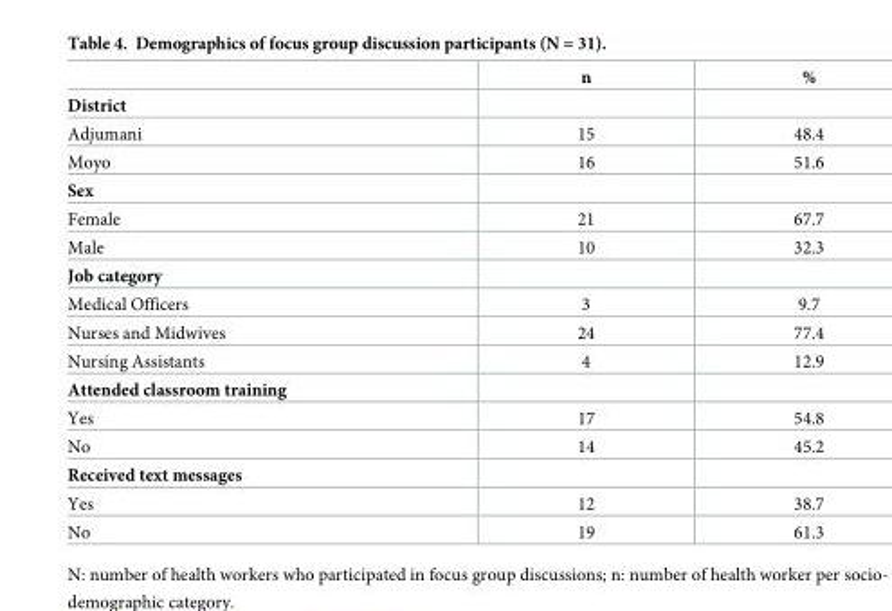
<table><thead><tr><td></td><td>n</td><td>%</td></tr></thead><tbody><tr><td colspan="3">District</td></tr><tr><td>Adjumani</td><td>15</td><td>48.4</td></tr><tr><td>Moyo</td><td>16</td><td>51.6</td></tr><tr><td colspan="3">Sex</td></tr><tr><td>Female</td><td>21</td><td>67.7</td></tr><tr><td>Male</td><td>10</td><td>32.3</td></tr><tr><td colspan="3">Job category</td></tr><tr><td>Medical Officers</td><td>3</td><td>9.7</td></tr><tr><td>Nurses and Midwives</td><td>24</td><td>77.4</td></tr><tr><td>Nursing Assistants</td><td>4</td><td>12.9</td></tr><tr><td colspan="3">Attended classroom training</td></tr><tr><td>Yes</td><td>17</td><td>54.8</td></tr><tr><td>No</td><td>14</td><td>45.2</td></tr><tr><td colspan="3">Received text messages</td></tr><tr><td>Yes</td><td>12</td><td>38.7</td></tr><tr><td>No</td><td>19</td><td>61.3</td></tr></tbody></table>